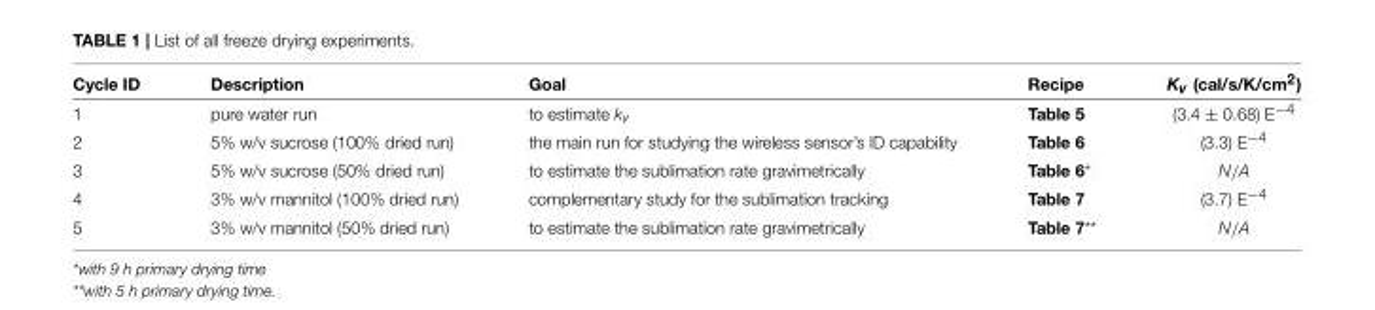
<table><thead><tr><td>Cycle ID</td><td>Description</td><td>Goal</td><td>Recipe</td><td>K<sub>v</sub> (cal/s/K/cm<sup>2</sup>)</td></tr></thead><tbody><tr><td>1</td><td>pure water run</td><td>to estimate k<sub>v</sub></td><td>Table 5</td><td>(3.4 ± 0.68) E<sup>−4</sup></td></tr><tr><td>2</td><td>5% w/v sucrose (100% dried run)</td><td>the main run for studying the wireless sensor’s ID capability</td><td>Table 6</td><td>(3.3) E<sup>−4</sup></td></tr><tr><td>3</td><td>5% w/v sucrose (50% dried run)</td><td>to estimate the sublimation rate gravimetrically</td><td>Table 6*</td><td>N/A</td></tr><tr><td>4</td><td>3% w/v mannitol (100% dried run)</td><td>complementary study for the sublimation tracking</td><td>Table 7</td><td>(3.7) E<sup>−4</sup></td></tr><tr><td>5</td><td>3% w/v mannitol (50% dried run)</td><td>to estimate the sublimation rate gravimetrically</td><td>Table 7**</td><td>N/A</td></tr></tbody></table>